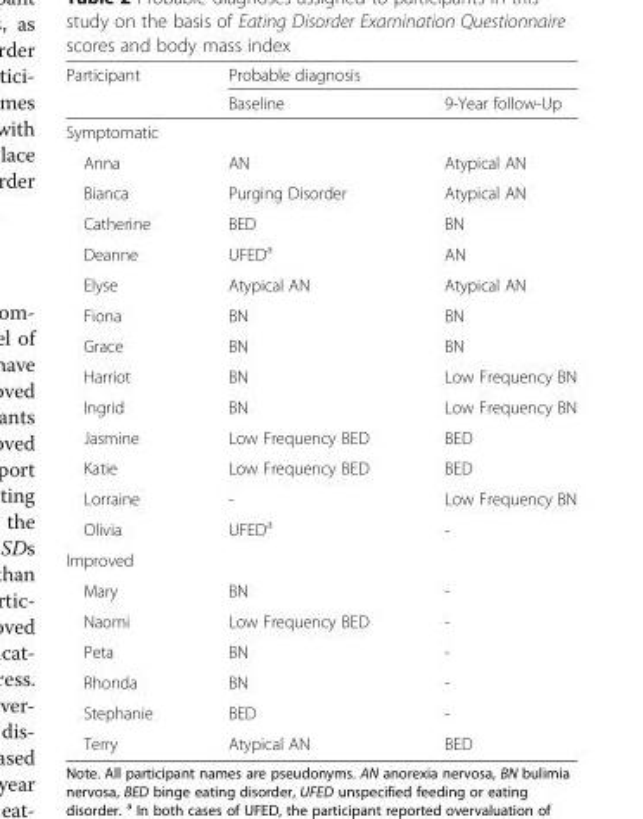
<table><thead><tr><td rowspan="2">Participant</td><td colspan="2">Probable diagnosis</td></tr><tr><td>Baseline</td><td>9-Year follow-Up</td></tr></thead><tbody><tr><td colspan="3">Symptomatic</td></tr><tr><td>Anna</td><td>AN</td><td>Atypical AN</td></tr><tr><td>Bianca</td><td>Purging Disorder</td><td>Atypical AN</td></tr><tr><td>Catherine</td><td>BED</td><td>BN</td></tr><tr><td>Deanne</td><td>UFED<sup>a</sup></td><td>AN</td></tr><tr><td>Elyse</td><td>Atypical AN</td><td>Atypical AN</td></tr><tr><td>Fiona</td><td>BN</td><td>BN</td></tr><tr><td>Grace</td><td>BN</td><td>BN</td></tr><tr><td>Harriot</td><td>BN</td><td>Low Frequency BN</td></tr><tr><td>Ingrid</td><td>BN</td><td>Low Frequency BN</td></tr><tr><td>Jasmine</td><td>Low Frequency BED</td><td>BED</td></tr><tr><td>Katie</td><td>Low Frequency BED</td><td>BED</td></tr><tr><td>Lorraine</td><td>-</td><td>Low Frequency BN</td></tr><tr><td>Olivia</td><td>UFED<sup>a</sup></td><td>-</td></tr><tr><td colspan="3">Improved</td></tr><tr><td>Mary</td><td>BN</td><td>-</td></tr><tr><td>Naomi</td><td>Low Frequency BED</td><td>-</td></tr><tr><td>Peta</td><td>BN</td><td>-</td></tr><tr><td>Rhonda</td><td>BN</td><td>-</td></tr><tr><td>Stephanie</td><td>BED</td><td>-</td></tr><tr><td>Terry</td><td>Atypical AN</td><td>BED</td></tr></tbody></table>